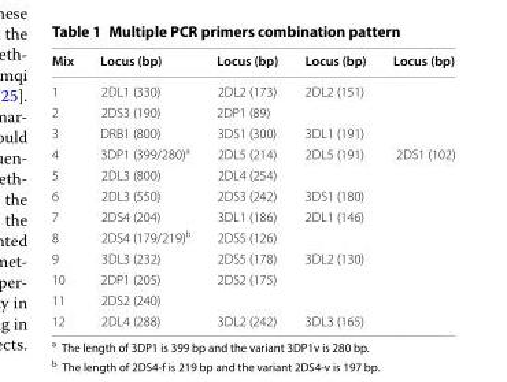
<table><thead><tr><td>Mix</td><td>Locus (bp)</td><td>Locus (bp)</td><td>Locus (bp)</td><td>Locus (bp)</td></tr></thead><tbody><tr><td>1</td><td>2DL1 (330)</td><td>2DL2 (173)</td><td>2DL2 (151)</td><td></td></tr><tr><td>2</td><td>2DS3 (190)</td><td>2DP1 (89)</td><td></td><td></td></tr><tr><td>3</td><td>DRB1 (800)</td><td>3DS1 (300)</td><td>3DL1 (191)</td><td></td></tr><tr><td>4</td><td>3DP1 (399/280)<sup>a</sup></td><td>2DL5 (214)</td><td>2DL5 (191)</td><td>2DS1 (102)</td></tr><tr><td>5</td><td>2DL3 (800)</td><td>2DL4 (254)</td><td></td><td></td></tr><tr><td>6</td><td>2DL3 (550)</td><td>2DS3 (242)</td><td>3DS1 (180)</td><td></td></tr><tr><td>7</td><td>2DS4 (204)</td><td>3DL1 (186)</td><td>2DL1 (146)</td><td></td></tr><tr><td>8</td><td>2DS4 (179/219)<sup>b</sup></td><td>2DS5 (126)</td><td></td><td></td></tr><tr><td>9</td><td>3DL3 (232)</td><td>2DS5 (178)</td><td>3DL2 (130)</td><td></td></tr><tr><td>10</td><td>2DP1 (205)</td><td>2DS2 (175)</td><td></td><td></td></tr><tr><td>11</td><td>2DS2 (240)</td><td></td><td></td><td></td></tr><tr><td>12</td><td>2DL4 (288)</td><td>3DL2 (242)</td><td>3DL3 (165)</td><td></td></tr></tbody></table>